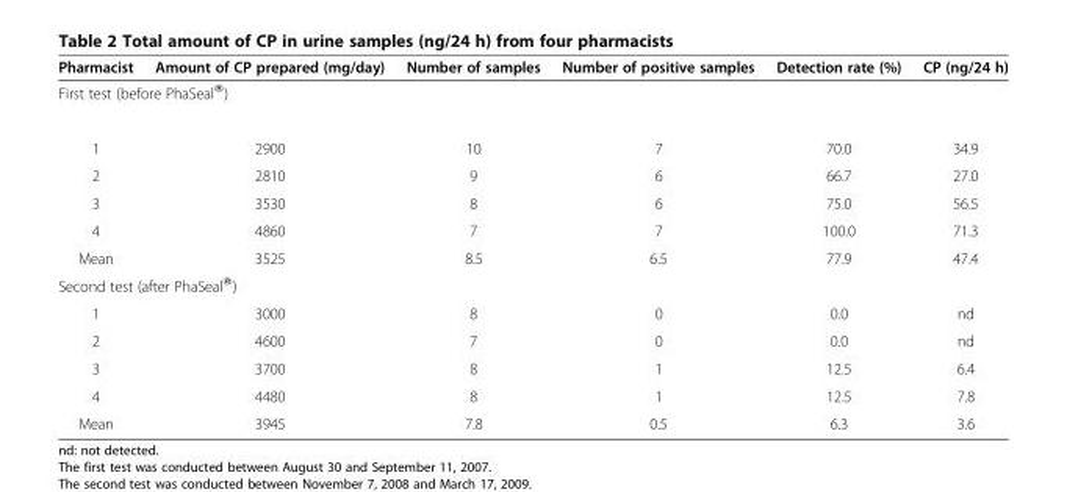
<table><thead><tr><td>Pharmacist</td><td>Amount of CP prepared (mg/day)</td><td>Number of samples</td><td>Number of positive samples</td><td>Detection rate (%)</td><td>CP (ng/24 h)</td></tr></thead><tbody><tr><td colspan="6">First test (before PhaSeal<sup>®</sup>)</td></tr><tr><td>1</td><td>2900</td><td>10</td><td>7</td><td>70.0</td><td>34.9</td></tr><tr><td>2</td><td>2810</td><td>9</td><td>6</td><td>66.7</td><td>27.0</td></tr><tr><td>3</td><td>3530</td><td>8</td><td>6</td><td>75.0</td><td>56.5</td></tr><tr><td>4</td><td>4860</td><td>7</td><td>7</td><td>100.0</td><td>71.3</td></tr><tr><td>Mean</td><td>3525</td><td>8.5</td><td>6.5</td><td>77.9</td><td>47.4</td></tr><tr><td colspan="6">Second test (after PhaSeal<sup>®</sup>)</td></tr><tr><td>1</td><td>3000</td><td>8</td><td>0</td><td>0.0</td><td>nd</td></tr><tr><td>2</td><td>4600</td><td>7</td><td>0</td><td>0.0</td><td>nd</td></tr><tr><td>3</td><td>3700</td><td>8</td><td>1</td><td>12.5</td><td>6.4</td></tr><tr><td>4</td><td>4480</td><td>8</td><td>1</td><td>12.5</td><td>7.8</td></tr><tr><td>Mean</td><td>3945</td><td>7.8</td><td>0.5</td><td>6.3</td><td>3.6</td></tr></tbody></table>